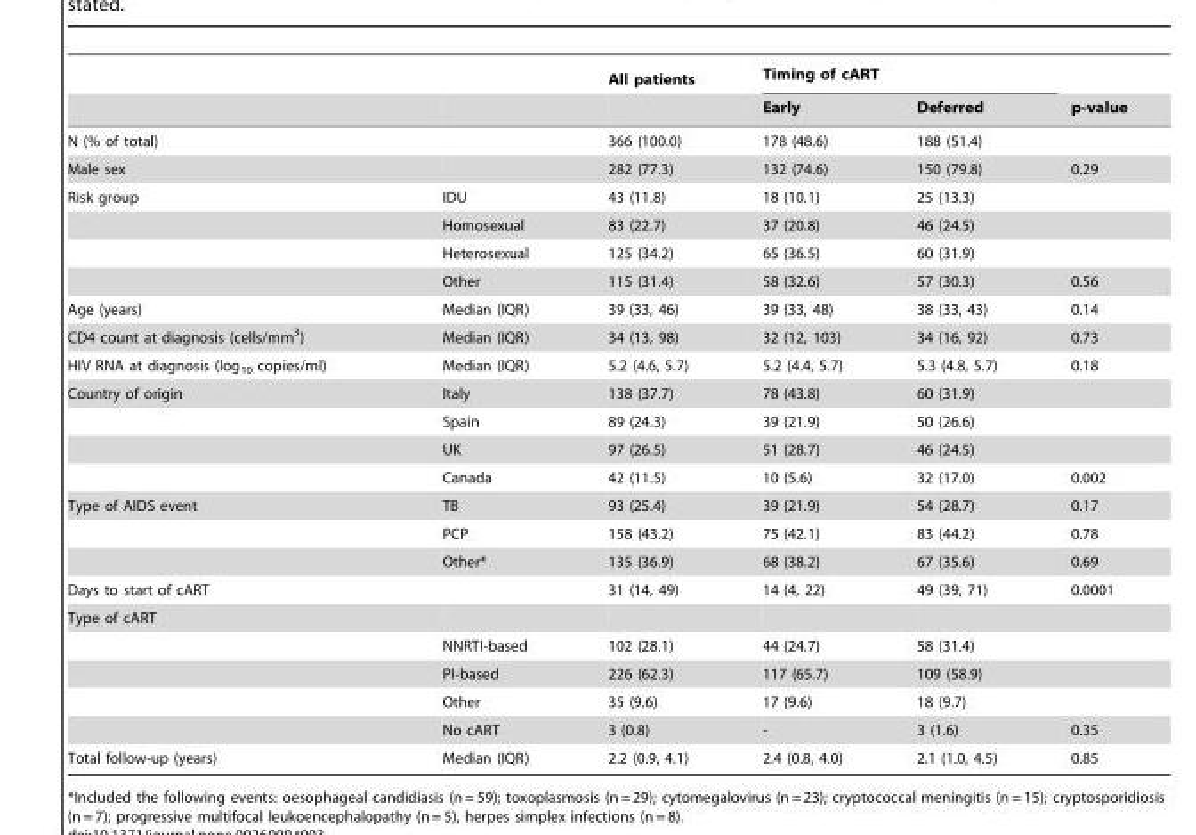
<table><thead><tr><td rowspan="2"></td><td rowspan="2"></td><td rowspan="2">All patients</td><td colspan="2">Timing of cART</td><td rowspan="2">p-value</td></tr><tr><td>Early</td><td>Deferred</td></tr></thead><tbody><tr><td>N (% of total)</td><td></td><td>366 (100.0)</td><td>178 (48.6)</td><td>188 (51.4)</td><td></td></tr><tr><td>Male sex</td><td></td><td>282 (77.3)</td><td>132 (74.6)</td><td>150 (79.8)</td><td>0.29</td></tr><tr><td rowspan="4">Risk group</td><td>IDU</td><td>43 (11.8)</td><td>18 (10.1)</td><td>25 (13.3)</td><td></td></tr><tr><td>Homosexual</td><td>83 (22.7)</td><td>37 (20.8)</td><td>46 (24.5)</td><td></td></tr><tr><td>Heterosexual</td><td>125 (34.2)</td><td>65 (36.5)</td><td>60 (31.9)</td><td></td></tr><tr><td>Other</td><td>115 (31.4)</td><td>58 (32.6)</td><td>57 (30.3)</td><td>0.56</td></tr><tr><td>Age (years)</td><td>Median (IQR)</td><td>39 (33, 46)</td><td>39 (33, 48)</td><td>38 (33, 43)</td><td>0.14</td></tr><tr><td>CD4 count at diagnosis (cells/mm<sup>3</sup>)</td><td>Median (IQR)</td><td>34 (13, 98)</td><td>32 (12, 103)</td><td>34 (16, 92)</td><td>0.73</td></tr><tr><td>HIV RNA at diagnosis (log<sub>10</sub> copies/ml)</td><td>Median (IQR)</td><td>5.2 (4.6, 5.7)</td><td>5.2 (4.4, 5.7)</td><td>5.3 (4.8, 5.7)</td><td>0.18</td></tr><tr><td rowspan="4">Country of origin</td><td>Italy</td><td>138 (37.7)</td><td>78 (43.8)</td><td>60 (31.9)</td><td></td></tr><tr><td>Spain</td><td>89 (24.3)</td><td>39 (21.9)</td><td>50 (26.6)</td><td></td></tr><tr><td>UK</td><td>97 (26.5)</td><td>51 (28.7)</td><td>46 (24.5)</td><td></td></tr><tr><td>Canada</td><td>42 (11.5)</td><td>10 (5.6)</td><td>32 (17.0)</td><td>0.002</td></tr><tr><td rowspan="3">Type of AIDS event</td><td>TB</td><td>93 (25.4)</td><td>39 (21.9)</td><td>54 (28.7)</td><td>0.17</td></tr><tr><td>PCP</td><td>158 (43.2)</td><td>75 (42.1)</td><td>83 (44.2)</td><td>0.78</td></tr><tr><td>Other*</td><td>135 (36.9)</td><td>68 (38.2)</td><td>67 (35.6)</td><td>0.69</td></tr><tr><td>Days to start of cART</td><td></td><td>31 (14, 49)</td><td>14 (4, 22)</td><td>49 (39, 71)</td><td>0.0001</td></tr><tr><td colspan="6">Type of cART</td></tr><tr><td></td><td>NNRTI-based</td><td>102 (28.1)</td><td>44 (24.7)</td><td>58 (31.4)</td><td></td></tr><tr><td></td><td>PI-based</td><td>226 (62.3)</td><td>117 (65.7)</td><td>109 (58.9)</td><td></td></tr><tr><td></td><td>Other</td><td>35 (9.6)</td><td>17 (9.6)</td><td>18 (9.7)</td><td></td></tr><tr><td></td><td>No cART</td><td>3 (0.8)</td><td>-</td><td>3 (1.6)</td><td>0.35</td></tr><tr><td>Total follow-up (years)</td><td>Median (IQR)</td><td>2.2 (0.9, 4.1)</td><td>2.4 (0.8, 4.0)</td><td>2.1 (1.0, 4.5)</td><td>0.85</td></tr></tbody></table>